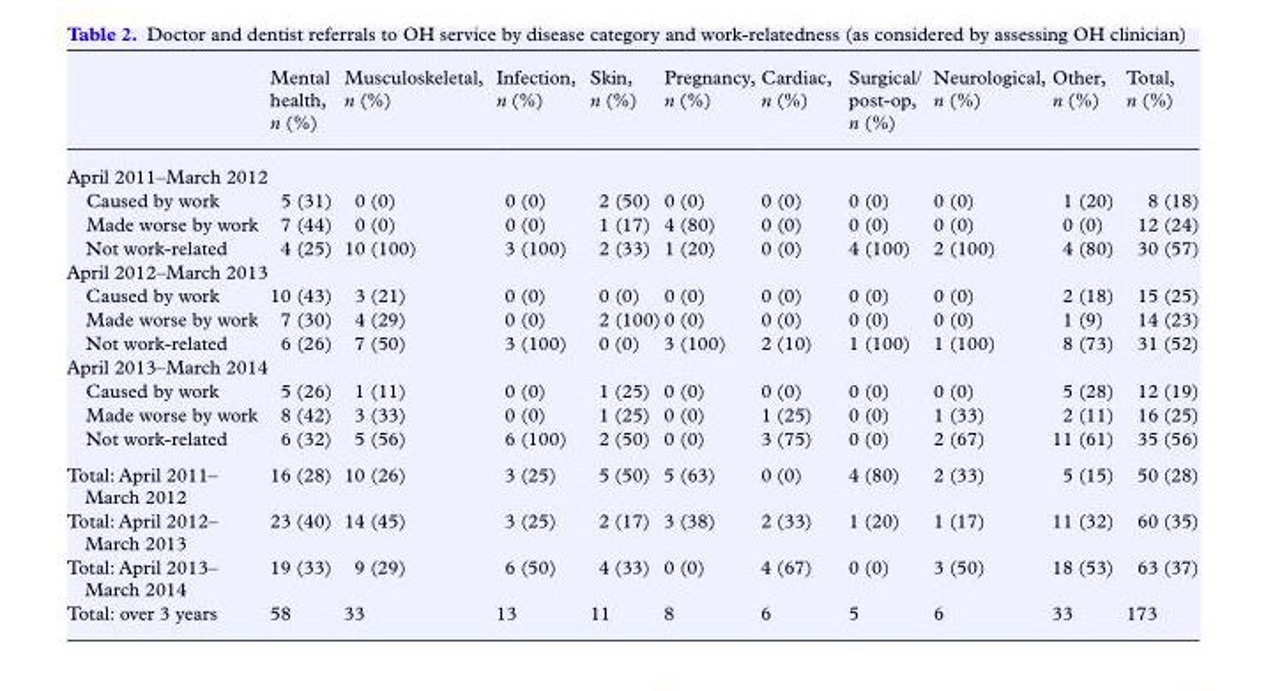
<table><thead><tr><td></td><td>Mental health, n (%)</td><td>Musculoskeletal, n (%)</td><td>Infection, n (%)</td><td>Skin, n (%)</td><td>Pregnancy, n (%)</td><td>Cardiac, n (%)</td><td>Surgical/ post-op, n (%)</td><td>Neurological, n (%)</td><td>Other, n (%)</td><td>Total, n (%)</td></tr></thead><tbody><tr><td colspan="11">April 2011–March 2012</td></tr><tr><td>Caused by work</td><td>5 (31)</td><td>0 (0)</td><td>0 (0)</td><td>2 (50)</td><td>0 (0)</td><td>0 (0)</td><td>0 (0)</td><td>0 (0)</td><td>1 (20)</td><td>8 (18)</td></tr><tr><td>Made worse by work</td><td>7 (44)</td><td>0 (0)</td><td>0 (0)</td><td>1 (17)</td><td>4 (80)</td><td>0 (0)</td><td>0 (0)</td><td>0 (0)</td><td>0 (0)</td><td>12 (24)</td></tr><tr><td>Not work-related</td><td>4 (25)</td><td>10 (100)</td><td>3 (100)</td><td>2 (33)</td><td>1 (20)</td><td>0 (0)</td><td>4 (100)</td><td>2 (100)</td><td>4 (80)</td><td>30 (57)</td></tr><tr><td colspan="11">April 2012–March 2013</td></tr><tr><td>Caused by work</td><td>10 (43)</td><td>3 (21)</td><td>0 (0)</td><td>0 (0)</td><td>0 (0)</td><td>0 (0)</td><td>0 (0)</td><td>0 (0)</td><td>2 (18)</td><td>15 (25)</td></tr><tr><td>Made worse by work</td><td>7 (30)</td><td>4 (29)</td><td>0 (0)</td><td>2 (100)</td><td>0 (0)</td><td>0 (0)</td><td>0 (0)</td><td>0 (0)</td><td>1 (9)</td><td>14 (23)</td></tr><tr><td>Not work-related</td><td>6 (26)</td><td>7 (50)</td><td>3 (100)</td><td>0 (0)</td><td>3 (100)</td><td>2 (10)</td><td>1 (100)</td><td>1 (100)</td><td>8 (73)</td><td>31 (52)</td></tr><tr><td colspan="11">April 2013–March 2014</td></tr><tr><td>Caused by work</td><td>5 (26)</td><td>1 (11)</td><td>0 (0)</td><td>1 (25)</td><td>0 (0)</td><td>0 (0)</td><td>0 (0)</td><td>0 (0)</td><td>5 (28)</td><td>12 (19)</td></tr><tr><td>Made worse by work</td><td>8 (42)</td><td>3 (33)</td><td>0 (0)</td><td>1 (25)</td><td>0 (0)</td><td>1 (25)</td><td>0 (0)</td><td>1 (33)</td><td>2 (11)</td><td>16 (25)</td></tr><tr><td>Not work-related</td><td>6 (32)</td><td>5 (56)</td><td>6 (100)</td><td>2 (50)</td><td>0 (0)</td><td>3 (75)</td><td>0 (0)</td><td>2 (67)</td><td>11 (61)</td><td>35 (56)</td></tr><tr><td>Total: April 2011– March 2012</td><td>16 (28)</td><td>10 (26)</td><td>3 (25)</td><td>5 (50)</td><td>5 (63)</td><td>0 (0)</td><td>4 (80)</td><td>2 (33)</td><td>5 (15)</td><td>50 (28)</td></tr><tr><td>Total: April 2012– March 2013</td><td>23 (40)</td><td>14 (45)</td><td>3 (25)</td><td>2 (17)</td><td>3 (38)</td><td>2 (33)</td><td>1 (20)</td><td>1 (17)</td><td>11 (32)</td><td>60 (35)</td></tr><tr><td>Total: April 2013– March 2014</td><td>19 (33)</td><td>9 (29)</td><td>6 (50)</td><td>4 (33)</td><td>0 (0)</td><td>4 (67)</td><td>0 (0)</td><td>3 (50)</td><td>18 (53)</td><td>63 (37)</td></tr><tr><td>Total: over 3 years</td><td>58</td><td>33</td><td>13</td><td>11</td><td>8</td><td>6</td><td>5</td><td>6</td><td>33</td><td>173</td></tr></tbody></table>